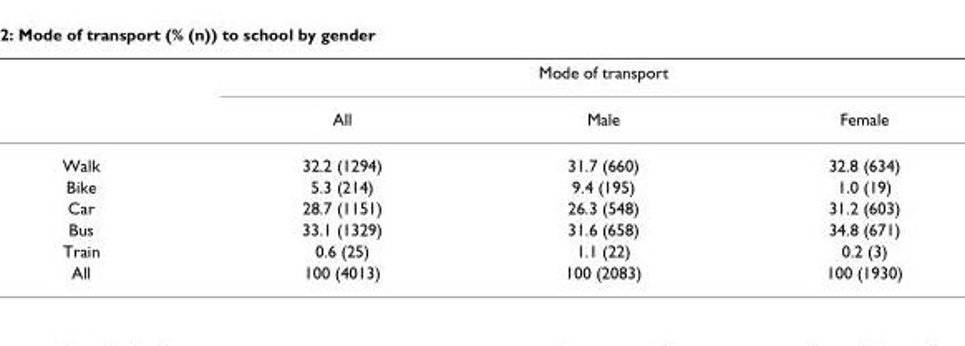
<table><thead><tr><td rowspan="2"></td><td colspan="3">Mode of transport</td></tr><tr><td>All</td><td>Male</td><td>Female</td></tr></thead><tbody><tr><td>Walk</td><td>32.2 (1294)</td><td>31.7 (660)</td><td>32.8 (634)</td></tr><tr><td>Bike</td><td>5.3 (214)</td><td>9.4 (195)</td><td>1.0 (19)</td></tr><tr><td>Car</td><td>28.7 (1151)</td><td>26.3 (548)</td><td>31.2 (603)</td></tr><tr><td>Bus</td><td>33.1 (1329)</td><td>31.6 (658)</td><td>34.8 (671)</td></tr><tr><td>Train</td><td>0.6 (25)</td><td>1.1 (22)</td><td>0.2 (3)</td></tr><tr><td>All</td><td>100 (4013)</td><td>100 (2083)</td><td>100 (1930)</td></tr></tbody></table>